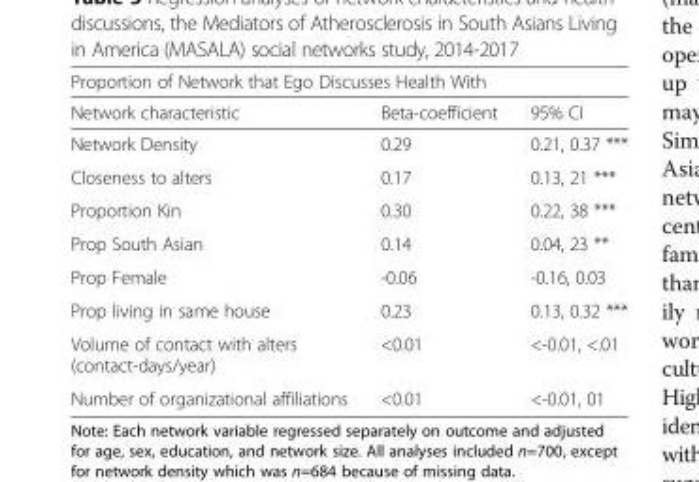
<table><thead><tr><td colspan="3">Proportion of Network that Ego Discusses Health With</td></tr><tr><td>Network characteristic</td><td>Beta-coefficient</td><td>95% CI</td></tr></thead><tbody><tr><td>Network Density</td><td>0.29</td><td>0.21, 0.37 ***</td></tr><tr><td>Closeness to alters</td><td>0.17</td><td>0.13, 21 ***</td></tr><tr><td>Proportion Kin</td><td>0.30</td><td>0.22, 38 ***</td></tr><tr><td>Prop South Asian</td><td>0.14</td><td>0.04, 23 **</td></tr><tr><td>Prop Female</td><td>-0.06</td><td>-0.16, 0.03</td></tr><tr><td>Prop living in same house</td><td>0.23</td><td>0.13, 0.32 ***</td></tr><tr><td>Volume of contact with alters (contact-days/year)</td><td>&lt;0.01</td><td>&lt;-0.01, &lt;.01</td></tr><tr><td>Number of organizational affiliations</td><td>&lt;0.01</td><td>&lt;-0.01, 01</td></tr></tbody></table>